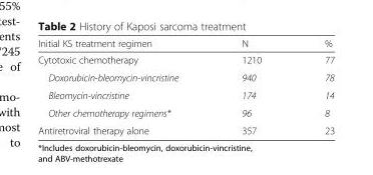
<table><thead><tr><td>Initial KS treatment regimen</td><td>N</td><td>%</td></tr></thead><tbody><tr><td>Cytotoxic chemotherapy</td><td>1210</td><td>77</td></tr><tr><td>Doxorubicin-bleomycin-vincristine</td><td>940</td><td>78</td></tr><tr><td>Bleomycin-vincristine</td><td>174</td><td>14</td></tr><tr><td>Other chemotherapy regimens*</td><td>96</td><td>8</td></tr><tr><td>Antiretroviral therapy alone</td><td>357</td><td>23</td></tr></tbody></table>